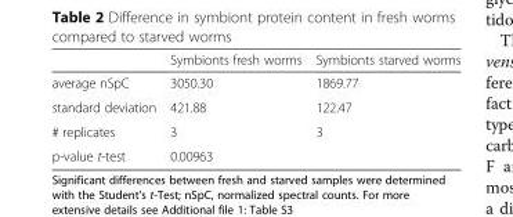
<table><thead><tr><td></td><td>Symbionts fresh worms</td><td>Symbionts starved worms</td></tr></thead><tbody><tr><td>average nSpC</td><td>3050.30</td><td>1869.77</td></tr><tr><td>standard deviation</td><td>421.88</td><td>122.47</td></tr><tr><td># replicates</td><td>3</td><td>3</td></tr><tr><td>p-value t-test</td><td colspan="2">0.00963</td></tr></tbody></table>